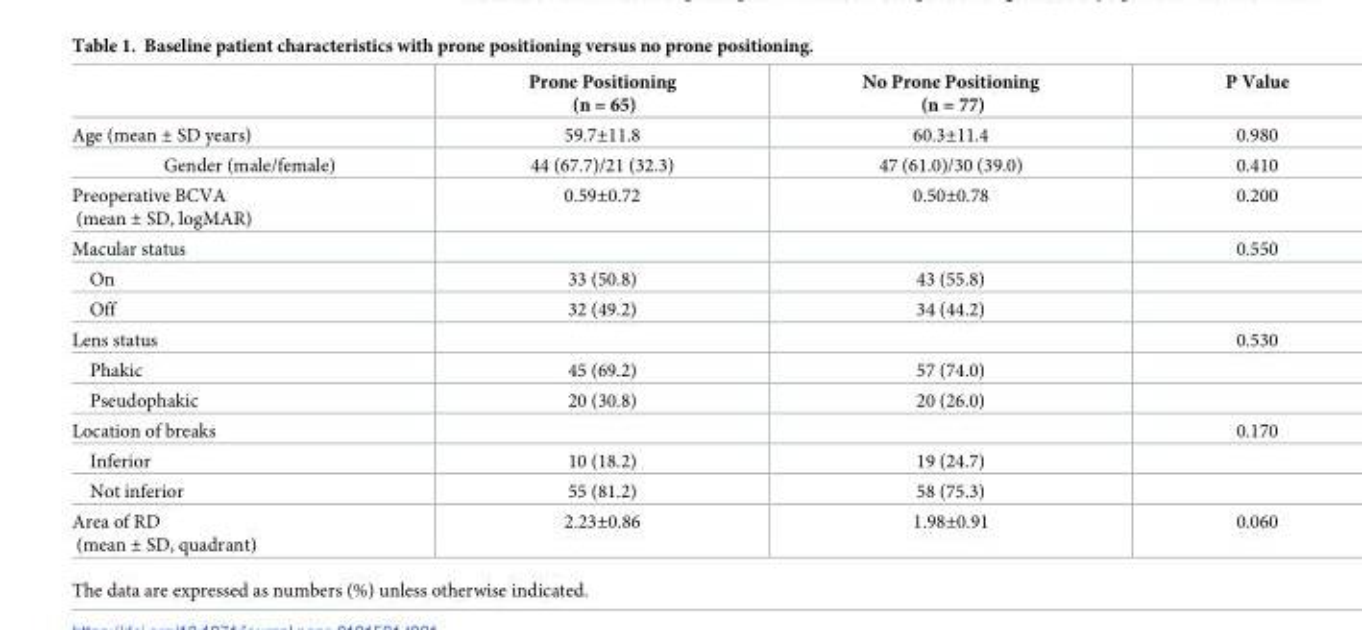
<table><thead><tr><td></td><td>Prone Positioning (n = 65)</td><td>No Prone Positioning (n = 77)</td><td>P Value</td></tr></thead><tbody><tr><td>Age (mean ± SD years)</td><td>59.7±11.8</td><td>60.3±11.4</td><td>0.980</td></tr><tr><td>Gender (male/female)</td><td>44 (67.7)/21 (32.3)</td><td>47 (61.0)/30 (39.0)</td><td>0.410</td></tr><tr><td>Preoperative BCVA (mean ± SD, logMAR)</td><td>0.59±0.72</td><td>0.50±0.78</td><td>0.200</td></tr><tr><td>Macular status</td><td></td><td></td><td>0.550</td></tr><tr><td>On</td><td>33 (50.8)</td><td>43 (55.8)</td><td></td></tr><tr><td>Off</td><td>32 (49.2)</td><td>34 (44.2)</td><td></td></tr><tr><td>Lens status</td><td></td><td></td><td>0.530</td></tr><tr><td>Phakic</td><td>45 (69.2)</td><td>57 (74.0)</td><td></td></tr><tr><td>Pseudophakic</td><td>20 (30.8)</td><td>20 (26.0)</td><td></td></tr><tr><td>Location of breaks</td><td></td><td></td><td>0.170</td></tr><tr><td>Inferior</td><td>10 (18.2)</td><td>19 (24.7)</td><td></td></tr><tr><td>Not inferior</td><td>55 (81.2)</td><td>58 (75.3)</td><td></td></tr><tr><td>Area of RD (mean ± SD, quadrant)</td><td>2.23±0.86</td><td>1.98±0.91</td><td>0.060</td></tr></tbody></table>